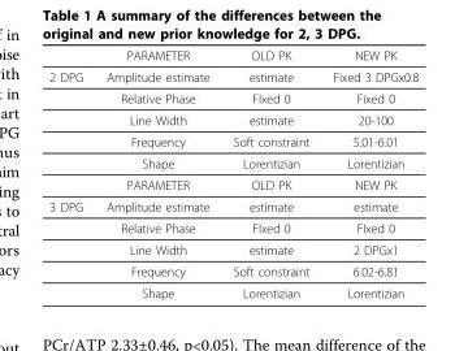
<table><thead><tr><td></td><td>PARAMETER</td><td>OLD PK</td><td>NEW PK</td></tr></thead><tbody><tr><td rowspan="6">2 DPG</td><td>Amplitude estimate</td><td>estimate</td><td>Fixed 3 DPGx0.8</td></tr><tr><td>Relative Phase</td><td>FIxed 0</td><td>Fixed 0</td></tr><tr><td>Line Width</td><td>estimate</td><td>20-100</td></tr><tr><td>Frequency</td><td>Soft constraint</td><td>5.01-6.01</td></tr><tr><td>Shape</td><td>Lorentizian</td><td>Lorentizian</td></tr><tr><td>PARAMETER</td><td>OLD PK</td><td>NEW PK</td></tr><tr><td rowspan="5">3 DPG</td><td>Amplitude estimate</td><td>estimate</td><td>estimate</td></tr><tr><td>Relative Phase</td><td>FIxed 0</td><td>FIxed 0</td></tr><tr><td>Line Width</td><td>estimate</td><td>2 DPGx1</td></tr><tr><td>Frequency</td><td>Soft constraint</td><td>6.02-6.81</td></tr><tr><td>Shape</td><td>Lorentizian</td><td>Lorentizian</td></tr></tbody></table>